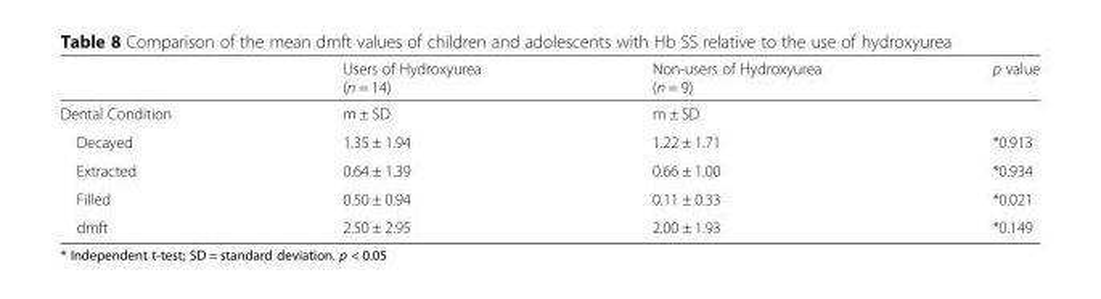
<table><thead><tr><td></td><td>Users of Hydroxyurea (n = 14)</td><td>Non-users of Hydroxyurea (n = 9)</td><td>p value</td></tr></thead><tbody><tr><td>Dental Condition</td><td>m ± SD</td><td>m ± SD</td><td></td></tr><tr><td>Decayed</td><td>1.35 ± 1.94</td><td>1.22 ± 1.71</td><td>*0.913</td></tr><tr><td>Extracted</td><td>0.64 ± 1.39</td><td>0.66 ± 1.00</td><td>*0.934</td></tr><tr><td>Filled</td><td>0.50 ± 0.94</td><td>0.11 ± 0.33</td><td>*0.021</td></tr><tr><td>dmft</td><td>2.50 ± 2.95</td><td>2.00 ± 1.93</td><td>*0.149</td></tr></tbody></table>